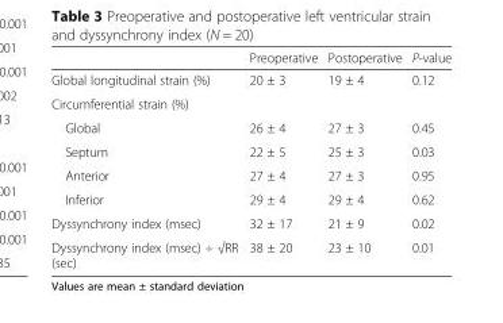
<table><thead><tr><td></td><td>Preoperative</td><td>Postoperative</td><td>P-value</td></tr></thead><tbody><tr><td>Global longitudinal strain (%)</td><td>20 ± 3</td><td>19 ± 4</td><td>0.12</td></tr><tr><td colspan="4">Circumferential strain (%)</td></tr><tr><td>Global</td><td>26 ± 4</td><td>27 ± 3</td><td>0.45</td></tr><tr><td>Septum</td><td>22 ± 5</td><td>25 ± 3</td><td>0.03</td></tr><tr><td>Anterior</td><td>27 ± 4</td><td>27 ± 3</td><td>0.95</td></tr><tr><td>Inferior</td><td>29 ± 4</td><td>29 ± 4</td><td>0.62</td></tr><tr><td>Dyssynchrony index (msec)</td><td>32 ± 17</td><td>21 ± 9</td><td>0.02</td></tr><tr><td>Dyssynchrony index (msec) ÷ √RR (sec)</td><td>38 ± 20</td><td>23 ± 10</td><td>0.01</td></tr></tbody></table>